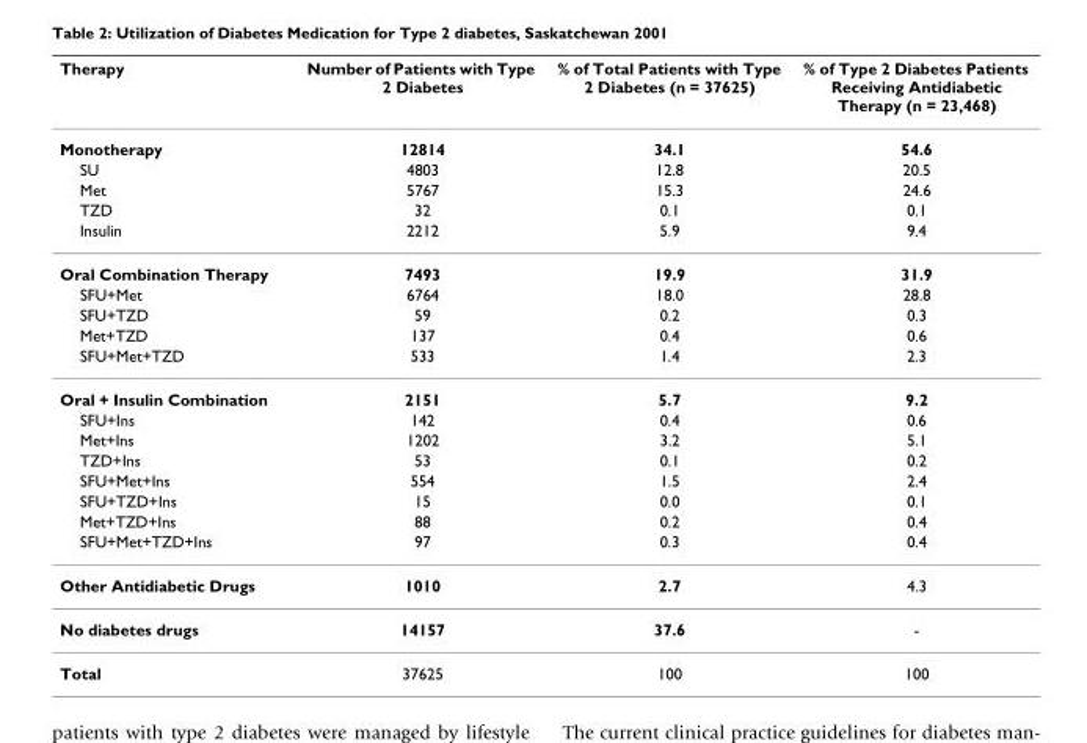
<table><thead><tr><td>Therapy</td><td>Number of Patients with Type 2 Diabetes</td><td>% of Total Patients with Type 2 Diabetes (n = 37625)</td><td>% of Type 2 Diabetes Patients Receiving Antidiabetic Therapy (n = 23,468)</td></tr></thead><tbody><tr><td>Monotherapy</td><td>12814</td><td>34.1</td><td>54.6</td></tr><tr><td>SU</td><td>4803</td><td>12.8</td><td>20.5</td></tr><tr><td>Met</td><td>5767</td><td>15.3</td><td>24.6</td></tr><tr><td>TZD</td><td>32</td><td>0.1</td><td>0.1</td></tr><tr><td>Insulin</td><td>2212</td><td>5.9</td><td>9.4</td></tr><tr><td>Oral Combination Therapy</td><td>7493</td><td>19.9</td><td>31.9</td></tr><tr><td>SFU+Met</td><td>6764</td><td>18.0</td><td>28.8</td></tr><tr><td>SFU+TZD</td><td>59</td><td>0.2</td><td>0.3</td></tr><tr><td>Met+TZD</td><td>137</td><td>0.4</td><td>0.6</td></tr><tr><td>SFU+Met+TZD</td><td>533</td><td>1.4</td><td>2.3</td></tr><tr><td>Oral + Insulin Combination</td><td>2151</td><td>5.7</td><td>9.2</td></tr><tr><td>SFU+Ins</td><td>142</td><td>0.4</td><td>0.6</td></tr><tr><td>Met+Ins</td><td>1202</td><td>3.2</td><td>5.1</td></tr><tr><td>TZD+Ins</td><td>53</td><td>0.1</td><td>0.2</td></tr><tr><td>SFU+Met+Ins</td><td>554</td><td>1.5</td><td>2.4</td></tr><tr><td>SFU+TZD+Ins</td><td>15</td><td>0.0</td><td>0.1</td></tr><tr><td>Met+TZD+Ins</td><td>88</td><td>0.2</td><td>0.4</td></tr><tr><td>SFU+Met+TZD+Ins</td><td>97</td><td>0.3</td><td>0.4</td></tr><tr><td>Other Antidiabetic Drugs</td><td>1010</td><td>2.7</td><td>4.3</td></tr><tr><td>No diabetes drugs</td><td>14157</td><td>37.6</td><td>-</td></tr><tr><td>Total</td><td>37625</td><td>100</td><td>100</td></tr></tbody></table>